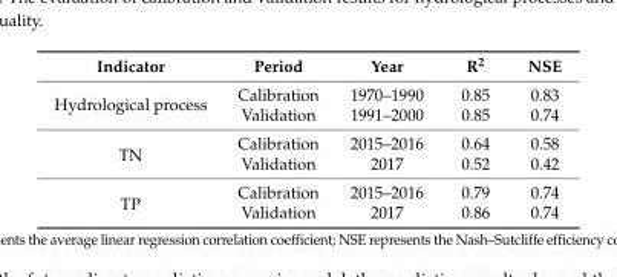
<table><thead><tr><td>Indicator</td><td>Period</td><td>Year</td><td>R<sup>2</sup></td><td>NSE</td></tr></thead><tbody><tr><td rowspan="2">Hydrological process</td><td>Calibration</td><td>1970–1990</td><td>0.85</td><td>0.83</td></tr><tr><td>Validation</td><td>1991–2000</td><td>0.85</td><td>0.74</td></tr><tr><td rowspan="2">TN</td><td>Calibration</td><td>2015–2016</td><td>0.64</td><td>0.58</td></tr><tr><td>Validation</td><td>2017</td><td>0.52</td><td>0.42</td></tr><tr><td rowspan="2">TP</td><td>Calibration</td><td>2015–2016</td><td>0.79</td><td>0.74</td></tr><tr><td>Validation</td><td>2017</td><td>0.86</td><td>0.74</td></tr></tbody></table>